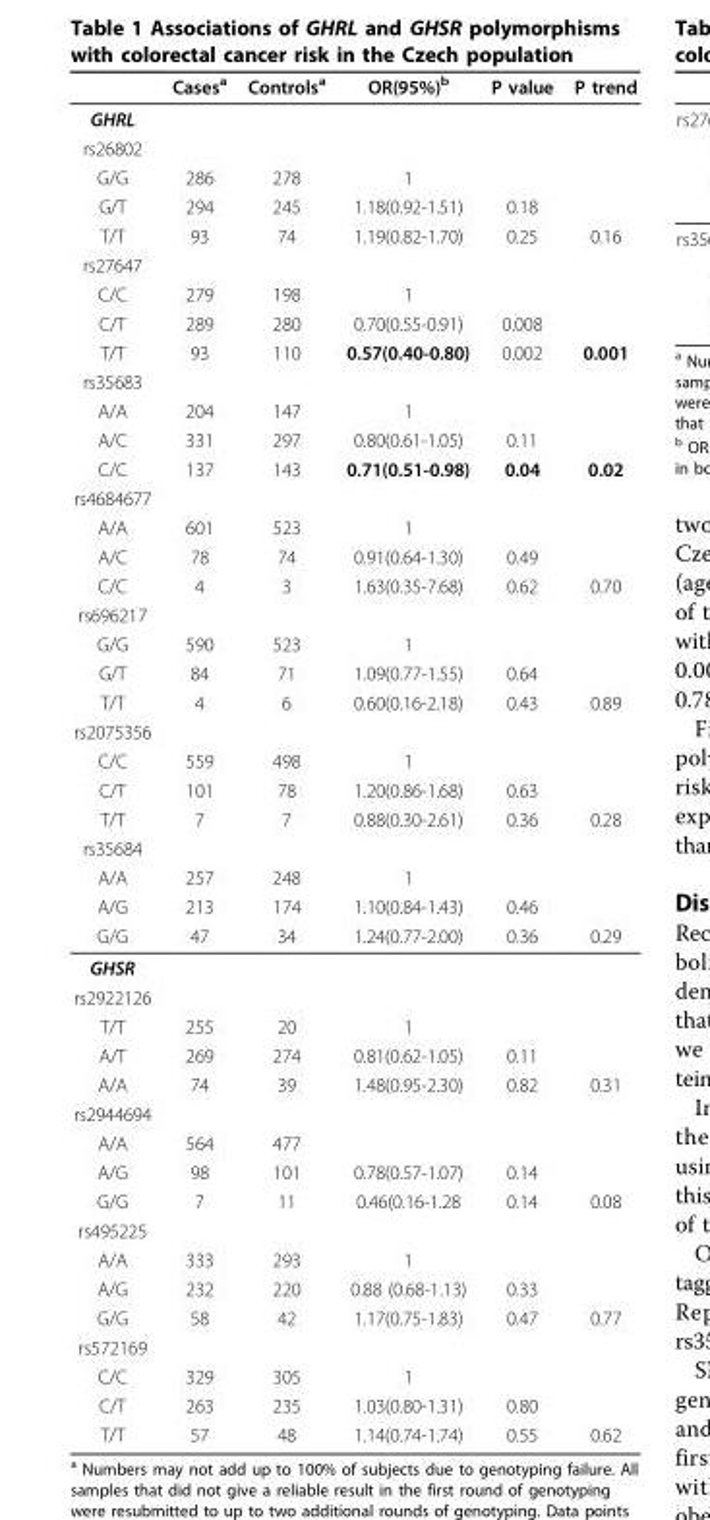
<table><thead><tr><td></td><td>Cases<sup>a</sup></td><td>Controls<sup>a</sup></td><td>OR(95%)<sup>b</sup></td><td>P value</td><td>P trend</td></tr></thead><tbody><tr><td colspan="6">GHRL</td></tr><tr><td colspan="6">rs26802</td></tr><tr><td>G/G</td><td>286</td><td>278</td><td>1</td><td></td><td></td></tr><tr><td>G/T</td><td>294</td><td>245</td><td>1.18(0.92-1.51)</td><td>0.18</td><td></td></tr><tr><td>T/T</td><td>93</td><td>74</td><td>1.19(0.82-1.70)</td><td>0.25</td><td>0.16</td></tr><tr><td colspan="6">rs27647</td></tr><tr><td>C/C</td><td>279</td><td>198</td><td>1</td><td></td><td></td></tr><tr><td>C/T</td><td>289</td><td>280</td><td>0.70(0.55-0.91)</td><td>0.008</td><td></td></tr><tr><td>T/T</td><td>93</td><td>110</td><td>0.57(0.40-0.80)</td><td>0.002</td><td>0.001</td></tr><tr><td colspan="6">rs35683</td></tr><tr><td>A/A</td><td>204</td><td>147</td><td>1</td><td></td><td></td></tr><tr><td>A/C</td><td>331</td><td>297</td><td>0.80(0.61-1.05)</td><td>0.11</td><td></td></tr><tr><td>C/C</td><td>137</td><td>143</td><td>0.71(0.51-0.98)</td><td>0.04</td><td>0.02</td></tr><tr><td colspan="6">rs4684677</td></tr><tr><td>A/A</td><td>601</td><td>523</td><td>1</td><td></td><td></td></tr><tr><td>A/C</td><td>78</td><td>74</td><td>0.91(0.64-1.30)</td><td>0.49</td><td></td></tr><tr><td>C/C</td><td>4</td><td>3</td><td>1.63(0.35-7.68)</td><td>0.62</td><td>0.70</td></tr><tr><td colspan="6">rs696217</td></tr><tr><td>G/G</td><td>590</td><td>523</td><td>1</td><td></td><td></td></tr><tr><td>G/T</td><td>84</td><td>71</td><td>1.09(0.77-1.55)</td><td>0.64</td><td></td></tr><tr><td>T/T</td><td>4</td><td>6</td><td>0.60(0.16-2.18)</td><td>0.43</td><td>0.89</td></tr><tr><td colspan="6">rs2075356</td></tr><tr><td>C/C</td><td>559</td><td>498</td><td>1</td><td></td><td></td></tr><tr><td>C/T</td><td>101</td><td>78</td><td>1.20(0.86-1.68)</td><td>0.63</td><td></td></tr><tr><td>T/T</td><td>7</td><td>7</td><td>0.88(0.30-2.61)</td><td>0.36</td><td>0.28</td></tr><tr><td colspan="6">rs35684</td></tr><tr><td>A/A</td><td>257</td><td>248</td><td>1</td><td></td><td></td></tr><tr><td>A/G</td><td>213</td><td>174</td><td>1.10(0.84-1.43)</td><td>0.46</td><td></td></tr><tr><td>G/G</td><td>47</td><td>34</td><td>1.24(0.77-2.00)</td><td>0.36</td><td>0.29</td></tr><tr><td colspan="6">GHSR</td></tr><tr><td colspan="6">rs2922126</td></tr><tr><td>T/T</td><td>255</td><td>20</td><td>1</td><td></td><td></td></tr><tr><td>A/T</td><td>269</td><td>274</td><td>0.81(0.62-1.05)</td><td>0.11</td><td></td></tr><tr><td>A/A</td><td>74</td><td>39</td><td>1.48(0.95-2.30)</td><td>0.82</td><td>0.31</td></tr><tr><td colspan="6">rs2944694</td></tr><tr><td>A/A</td><td>564</td><td>477</td><td></td><td></td><td></td></tr><tr><td>A/G</td><td>98</td><td>101</td><td>0.78(0.57-1.07)</td><td>0.14</td><td></td></tr><tr><td>G/G</td><td>7</td><td>11</td><td>0.46(0.16-1.28</td><td>0.14</td><td>0.08</td></tr><tr><td colspan="6">rs495225</td></tr><tr><td>A/A</td><td>333</td><td>293</td><td>1</td><td></td><td></td></tr><tr><td>A/G</td><td>232</td><td>220</td><td>0.88 (0.68-1.13)</td><td>0.33</td><td></td></tr><tr><td>G/G</td><td>58</td><td>42</td><td>1.17(0.75-1.83)</td><td>0.47</td><td>0.77</td></tr><tr><td colspan="6">rs572169</td></tr><tr><td>C/C</td><td>329</td><td>305</td><td>1</td><td></td><td></td></tr><tr><td>C/T</td><td>263</td><td>235</td><td>1.03(0.80-1.31)</td><td>0.80</td><td></td></tr><tr><td>T/T</td><td>57</td><td>48</td><td>1.14(0.74-1.74)</td><td>0.55</td><td>0.62</td></tr></tbody></table>